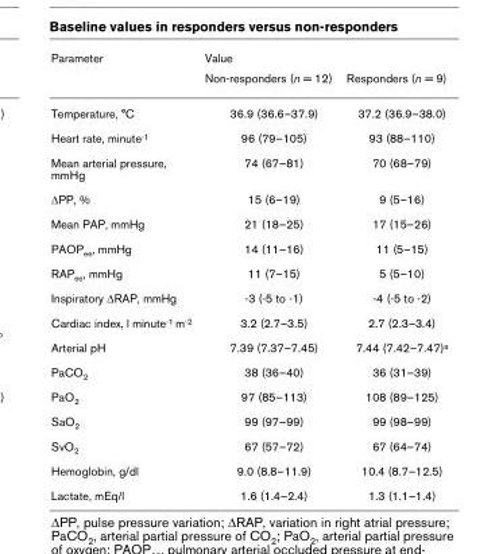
<table><thead><tr><td rowspan="2">Parameter</td><td colspan="2">Value</td></tr><tr><td>Non-responders (n = 12)</td><td>Responders (n = 9)</td></tr></thead><tbody><tr><td>Temperature, °C</td><td>36.9 (36.6–37.9)</td><td>37.2 (36.9–38.0)</td></tr><tr><td>Heart rate, minute-1</td><td>96 (79–105)</td><td>93 (88–110)</td></tr><tr><td>Mean arterial pressure, mmHg</td><td>74 (67–81)</td><td>70 (68–79)</td></tr><tr><td>∆PP, %</td><td>15 (6–19)</td><td>9 (5–16)</td></tr><tr><td>Mean PAP, mmHg</td><td>21 (18–25)</td><td>17 (15–26)</td></tr><tr><td>PAOPee, mmHg</td><td>14 (11–16)</td><td>11 (5–15)</td></tr><tr><td>RAPee, mmHg</td><td>11 (7–15)</td><td>5 (5–10)</td></tr><tr><td>Inspiratory ∆RAP, mmHg</td><td>-3 (-5 to -1)</td><td>-4 (-5 to -2)</td></tr><tr><td>Cardiac index, l minute-1 m-2</td><td>3.2 (2.7–3.5)</td><td>2.7 (2.3–3.4)</td></tr><tr><td>Arterial pH</td><td>7.39 (7.37–7.45)</td><td>7.44 (7.42–7.47)a</td></tr><tr><td>PaCO2</td><td>38 (36–40)</td><td>36 (31–39)</td></tr><tr><td>PaO2</td><td>97 (85–113)</td><td>108 (89–125)</td></tr><tr><td>SaO2</td><td>99 (97–99)</td><td>99 (98–99)</td></tr><tr><td>SvO2</td><td>67 (57–72)</td><td>67 (64–74)</td></tr><tr><td>Hemoglobin, g/dl</td><td>9.0 (8.8–11.9)</td><td>10.4 (8.7–12.5)</td></tr><tr><td>Lactate, mEq/l</td><td>1.6 (1.4–2.4)</td><td>1.3 (1.1–1.4)</td></tr></tbody></table>